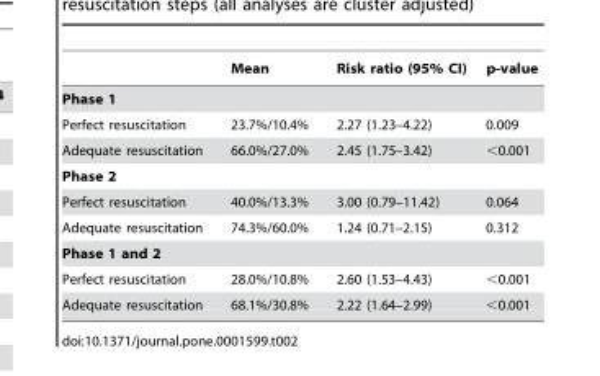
<table><thead><tr><td></td><td>Mean</td><td>Risk ratio (95% CI)</td><td>p-value</td></tr></thead><tbody><tr><td colspan="4">Phase 1</td></tr><tr><td>Perfect resuscitation</td><td>23.7%/10.4%</td><td>2.27 (1.23–4.22)</td><td>0.009</td></tr><tr><td>Adequate resuscitation</td><td>66.0%/27.0%</td><td>2.45 (1.75–3.42)</td><td>&lt;0.001</td></tr><tr><td colspan="4">Phase 2</td></tr><tr><td>Perfect resuscitation</td><td>40.0%/13.3%</td><td>3.00 (0.79–11.42)</td><td>0.064</td></tr><tr><td>Adequate resuscitation</td><td>74.3%/60.0%</td><td>1.24 (0.71–2.15)</td><td>0.312</td></tr><tr><td colspan="4">Phase 1 and 2</td></tr><tr><td>Perfect resuscitation</td><td>28.0%/10.8%</td><td>2.60 (1.53–4.43)</td><td>&lt;0.001</td></tr><tr><td>Adequate resuscitation</td><td>68.1%/30.8%</td><td>2.22 (1.64–2.99)</td><td>&lt;0.001</td></tr></tbody></table>